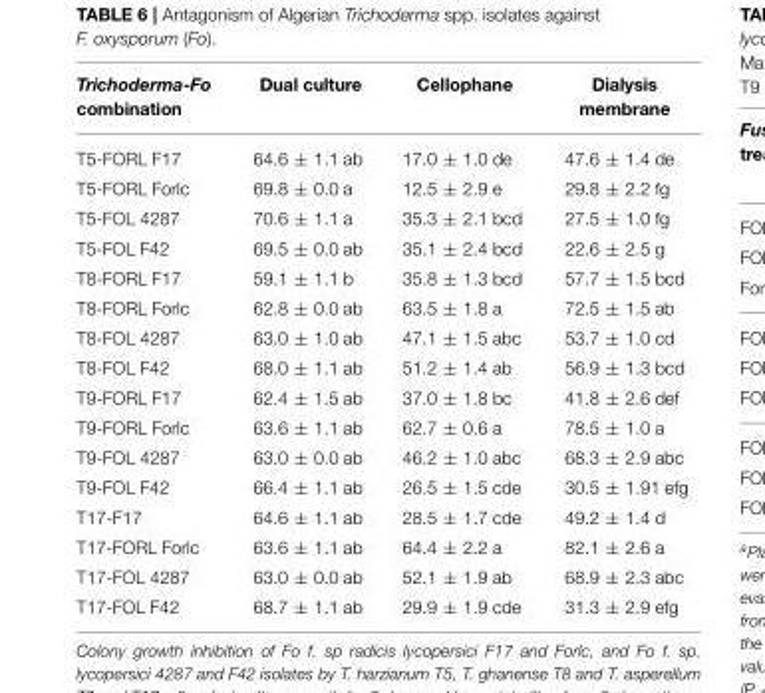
<table><thead><tr><td>Trichoderma-Fo combination</td><td>Dual culture</td><td>Cellophane</td><td>Dialysis membrane</td></tr></thead><tbody><tr><td>T5-FORL F17</td><td>64.6 ± 1.1 ab</td><td>17.0 ± 1.0 de</td><td>47.6 ± 1.4 de</td></tr><tr><td>T5-FORL Forlc</td><td>69.8 ± 0.0 a</td><td>12.5 ± 2.9 e</td><td>29.8 ± 2.2 fg</td></tr><tr><td>T5-FOL 4287</td><td>70.6 ± 1.1 a</td><td>35.3 ± 2.1 bcd</td><td>27.5 ± 1.0 fg</td></tr><tr><td>T5-FOL F42</td><td>69.5 ± 0.0 ab</td><td>35.1 ± 2.4 bcd</td><td>22.6 ± 2.5 g</td></tr><tr><td>T8-FORL F17</td><td>59.1 ± 1.1 b</td><td>35.8 ± 1.3 bcd</td><td>57.7 ± 1.5 bcd</td></tr><tr><td>T8-FORL Forlc</td><td>62.8 ± 0.0 ab</td><td>63.5 ± 1.8 a</td><td>72.5 ± 1.5 ab</td></tr><tr><td>T8-FOL 4287</td><td>63.0 ± 1.0 ab</td><td>47.1 ± 1.5 abc</td><td>53.7 ± 1.0 cd</td></tr><tr><td>T8-FOL F42</td><td>68.0 ± 1.1 ab</td><td>51.2 ± 1.4 ab</td><td>56.9 ± 1.3 bcd</td></tr><tr><td>T9-FORL F17</td><td>62.4 ± 1.5 ab</td><td>37.0 ± 1.8 bc</td><td>41.8 ± 2.6 def</td></tr><tr><td>T9-FORL Forlc</td><td>63.6 ± 1.1 ab</td><td>62.7 ± 0.6 a</td><td>78.5 ± 1.0 a</td></tr><tr><td>T9-FOL 4287</td><td>63.0 ± 0.0 ab</td><td>46.2 ± 1.0 abc</td><td>68.3 ± 2.9 abc</td></tr><tr><td>T9-FOL F42</td><td>66.4 ± 1.1 ab</td><td>26.5 ± 1.5 cde</td><td>30.5 ± 1.91 efg</td></tr><tr><td>T17-F17</td><td>64.6 ± 1.1 ab</td><td>28.5 ± 1.7 cde</td><td>49.2 ± 1.4 d</td></tr><tr><td>T17-FORL Forlc</td><td>63.6 ± 1.1 ab</td><td>64.4 ± 2.2 a</td><td>82.1 ± 2.6 a</td></tr><tr><td>T17-FOL 4287</td><td>63.0 ± 0.0 ab</td><td>52.1 ± 1.9 ab</td><td>68.9 ± 2.3 abc</td></tr><tr><td>T17-FOL F42</td><td>68.7 ± 1.1 ab</td><td>29.9 ± 1.9 cde</td><td>31.3 ± 2.9 efg</td></tr></tbody></table>